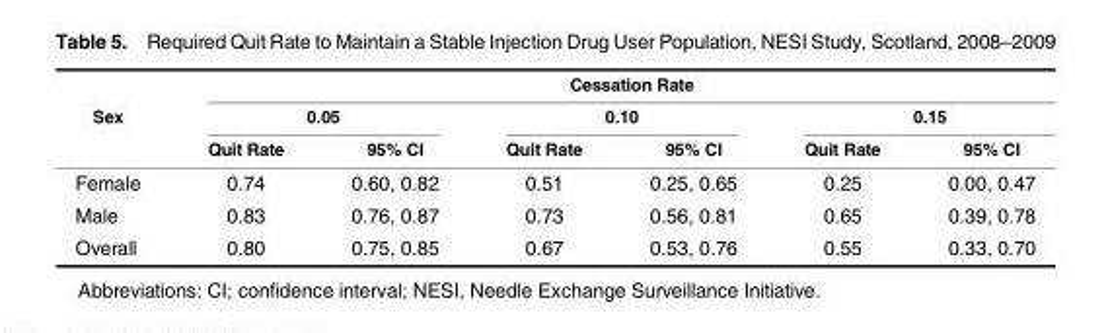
<table><thead><tr><td rowspan="3">Sex</td><td colspan="6">Cessation Rate</td></tr><tr><td colspan="2">0.05</td><td colspan="2">0.10</td><td colspan="2">0.15</td></tr><tr><td>Quit Rate</td><td>95% CI</td><td>Quit Rate</td><td>95% CI</td><td>Quit Rate</td><td>95% CI</td></tr></thead><tbody><tr><td>Female</td><td>0.74</td><td>0.60, 0.82</td><td>0.51</td><td>0.25, 0.65</td><td>0.25</td><td>0.00, 0.47</td></tr><tr><td>Male</td><td>0.83</td><td>0.76, 0.87</td><td>0.73</td><td>0.56, 0.81</td><td>0.65</td><td>0.39, 0.78</td></tr><tr><td>Overall</td><td>0.80</td><td>0.75, 0.85</td><td>0.67</td><td>0.53, 0.76</td><td>0.55</td><td>0.33, 0.70</td></tr></tbody></table>